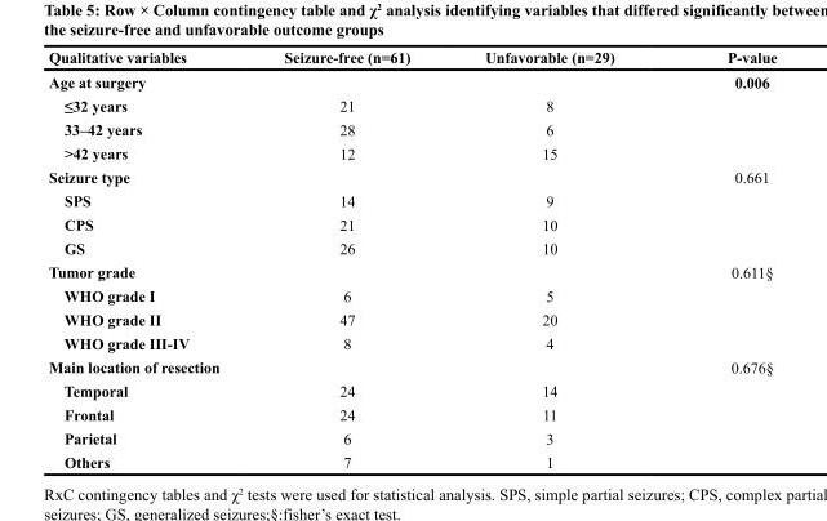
<table><thead><tr><td>Qualitative variables</td><td>Seizure-free (n=61)</td><td>Unfavorable (n=29)</td><td>P-value</td></tr></thead><tbody><tr><td>Age at surgery</td><td></td><td></td><td>0.006</td></tr><tr><td>≤32 years</td><td>21</td><td>8</td><td></td></tr><tr><td>33–42 years</td><td>28</td><td>6</td><td></td></tr><tr><td>&gt;42 years</td><td>12</td><td>15</td><td></td></tr><tr><td>Seizure type</td><td></td><td></td><td>0.661</td></tr><tr><td>SPS</td><td>14</td><td>9</td><td></td></tr><tr><td>CPS</td><td>21</td><td>10</td><td></td></tr><tr><td>GS</td><td>26</td><td>10</td><td></td></tr><tr><td>Tumor grade</td><td></td><td></td><td>0.611§</td></tr><tr><td>WHO grade I</td><td>6</td><td>5</td><td></td></tr><tr><td>WHO grade II</td><td>47</td><td>20</td><td></td></tr><tr><td>WHO grade III-IV</td><td>8</td><td>4</td><td></td></tr><tr><td>Main location of resection</td><td></td><td></td><td>0.676§</td></tr><tr><td>Temporal</td><td>24</td><td>14</td><td></td></tr><tr><td>Frontal</td><td>24</td><td>11</td><td></td></tr><tr><td>Parietal</td><td>6</td><td>3</td><td></td></tr><tr><td>Others</td><td>7</td><td>1</td><td></td></tr></tbody></table>